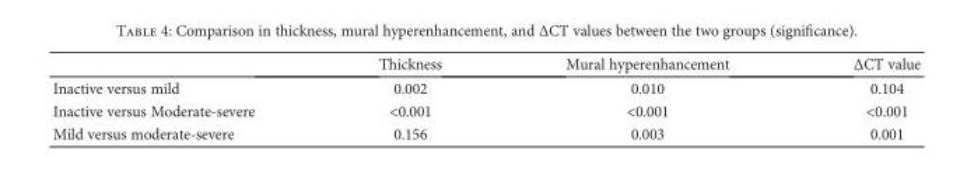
<table><thead><tr><td></td><td>Thickness</td><td>Mural hyperenhancement</td><td>ΔCT value</td></tr></thead><tbody><tr><td>Inactive versus mild</td><td>0.002</td><td>0.010</td><td>0.104</td></tr><tr><td>Inactive versus Moderate-severe</td><td>&lt;0.001</td><td>&lt;0.001</td><td>&lt;0.001</td></tr><tr><td>Mild versus moderate-severe</td><td>0.156</td><td>0.003</td><td>0.001</td></tr></tbody></table>